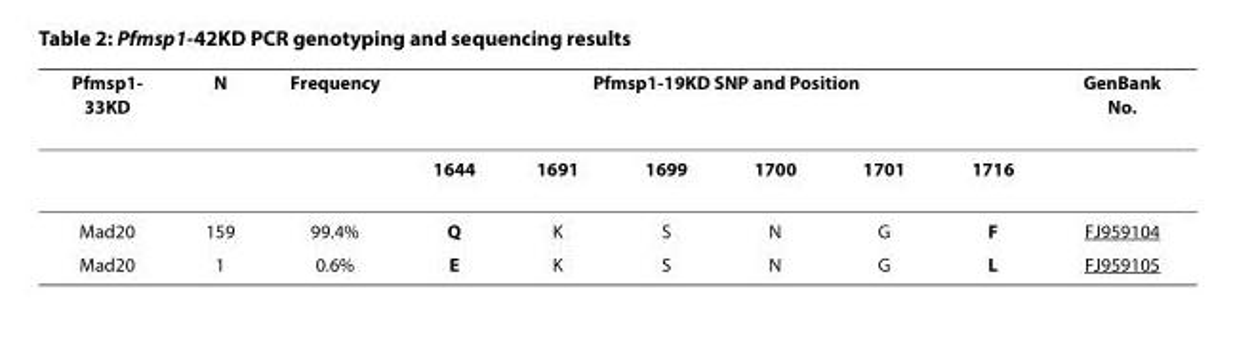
<table><thead><tr><td rowspan="2">Pfmsp1- 33KD</td><td rowspan="2">N</td><td rowspan="2">Frequency</td><td colspan="6">Pfmsp1-19KD SNP and Position</td><td rowspan="2">GenBank No.</td></tr><tr><td>1644</td><td>1691</td><td>1699</td><td>1700</td><td>1701</td><td>1716</td></tr></thead><tbody><tr><td>Mad20</td><td>159</td><td>99.4%</td><td>Q</td><td>K</td><td>S</td><td>N</td><td>G</td><td>F</td><td>FJ959104</td></tr><tr><td>Mad20</td><td>1</td><td>0.6%</td><td>E</td><td>K</td><td>S</td><td>N</td><td>G</td><td>L</td><td>FJ959105</td></tr></tbody></table>